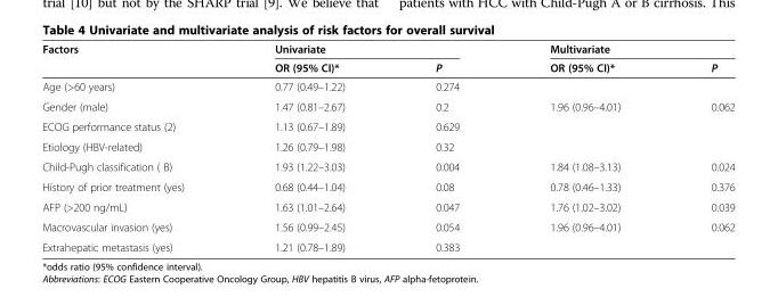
<table><thead><tr><td rowspan="2">Factors</td><td colspan="2">Univariate</td><td colspan="2">Multivariate</td></tr><tr><td>OR (95% CI)*</td><td>P</td><td>OR (95% CI)*</td><td>P</td></tr></thead><tbody><tr><td>Age (&gt;60 years)</td><td>0.77 (0.49–1.22)</td><td>0.274</td><td></td><td></td></tr><tr><td>Gender (male)</td><td>1.47 (0.81–2.67)</td><td>0.2</td><td>1.96 (0.96–4.01)</td><td>0.062</td></tr><tr><td>ECOG performance status (2)</td><td>1.13 (0.67–1.89)</td><td>0.629</td><td></td><td></td></tr><tr><td>Etiology (HBV-related)</td><td>1.26 (0.79–1.98)</td><td>0.32</td><td></td><td></td></tr><tr><td>Child-Pugh classification ( B)</td><td>1.93 (1.22–3.03)</td><td>0.004</td><td>1.84 (1.08–3.13)</td><td>0.024</td></tr><tr><td>History of prior treatment (yes)</td><td>0.68 (0.44–1.04)</td><td>0.08</td><td>0.78 (0.46–1.33)</td><td>0.376</td></tr><tr><td>AFP (&gt;200 ng/mL)</td><td>1.63 (1.01–2.64)</td><td>0.047</td><td>1.76 (1.02–3.02)</td><td>0.039</td></tr><tr><td>Macrovascular invasion (yes)</td><td>1.56 (0.99–2.45)</td><td>0.054</td><td>1.96 (0.96–4.01)</td><td>0.062</td></tr><tr><td>Extrahepatic metastasis (yes)</td><td>1.21 (0.78–1.89)</td><td>0.383</td><td></td><td></td></tr></tbody></table>